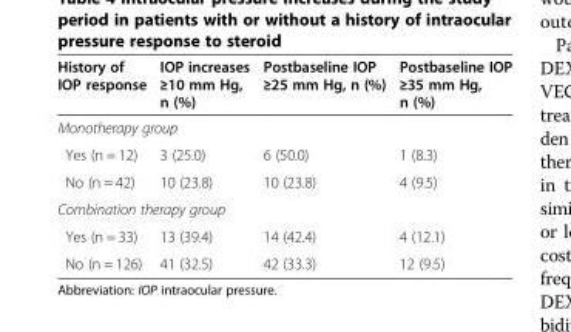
<table><thead><tr><td>History of IOP response</td><td>IOP increases ≥10 mm Hg, n (%)</td><td>Postbaseline IOP ≥25 mm Hg, n (%)</td><td>Postbaseline IOP ≥35 mm Hg, n (%)</td></tr></thead><tbody><tr><td colspan="4">Monotherapy group</td></tr><tr><td>Yes (n = 12)</td><td>3 (25.0)</td><td>6 (50.0)</td><td>1 (8.3)</td></tr><tr><td>No (n = 42)</td><td>10 (23.8)</td><td>10 (23.8)</td><td>4 (9.5)</td></tr><tr><td colspan="4">Combination therapy group</td></tr><tr><td>Yes (n = 33)</td><td>13 (39.4)</td><td>14 (42.4)</td><td>4 (12.1)</td></tr><tr><td>No (n = 126)</td><td>41 (32.5)</td><td>42 (33.3)</td><td>12 (9.5)</td></tr></tbody></table>